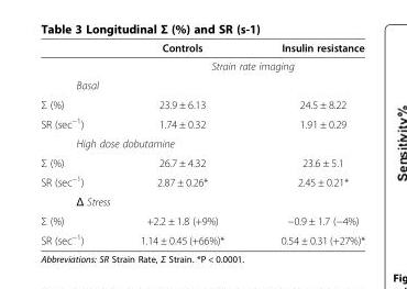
<table><thead><tr><td></td><td>Controls</td><td>Insulin resistance</td></tr></thead><tbody><tr><td></td><td colspan="2">Strain rate imaging</td></tr><tr><td colspan="3">Basal</td></tr><tr><td>Σ (%)</td><td>23.9 ± 6.13</td><td>24.5 ± 8.22</td></tr><tr><td>SR (sec<sup>−1</sup>)</td><td>1.74 ± 0.32</td><td>1.91 ± 0.29</td></tr><tr><td colspan="3">High dose dobutamine</td></tr><tr><td>Σ (%)</td><td>26.7 ± 4.32</td><td>23.6 ± 5.1</td></tr><tr><td>SR (sec<sup>−1</sup>)</td><td>2.87 ± 0.26*</td><td>2.45 ± 0.21*</td></tr><tr><td colspan="3">Δ Stress</td></tr><tr><td>Σ (%)</td><td>+2.2 ± 1.8 (+9%)</td><td>−0.9 ± 1.7 (−4%)</td></tr><tr><td>SR (sec<sup>−1</sup>)</td><td>1.14 ± 0.45 (+66%)*</td><td>0.54 ± 0.31 (+27%)*</td></tr></tbody></table>